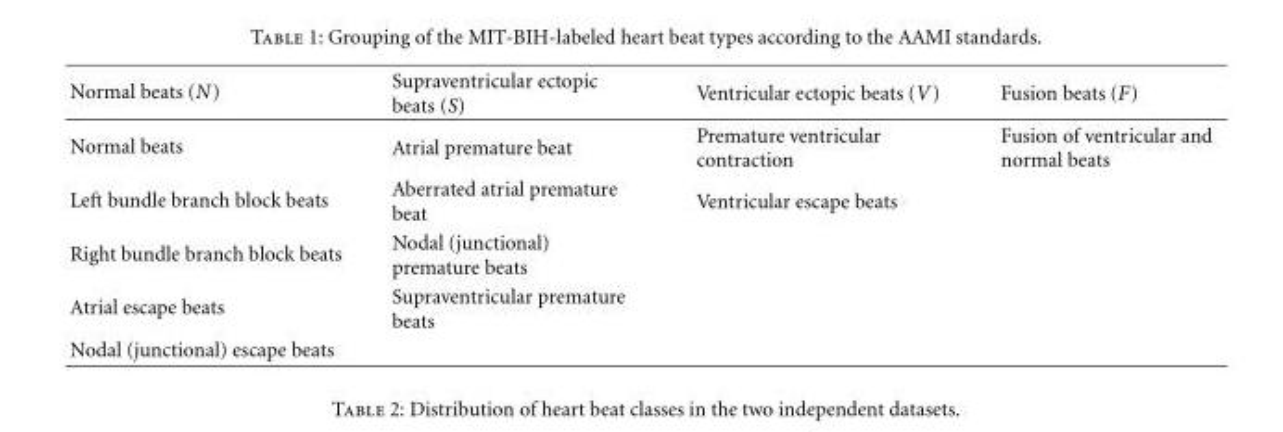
<table><thead><tr><td>Normal beats (N)</td><td>Supraventricular ectopic beats (S)</td><td>Ventricular ectopic beats (V)</td><td>Fusion beats (F)</td></tr></thead><tbody><tr><td>Normal beats</td><td>Atrial premature beat</td><td>Premature ventricular contraction</td><td>Fusion of ventricular and normal beats</td></tr><tr><td>Left bundle branch block beats</td><td>Aberrated atrial premature beat</td><td>Ventricular escape beats</td><td></td></tr><tr><td>Right bundle branch block beats</td><td>Nodal (junctional) premature beats</td><td></td><td></td></tr><tr><td>Atrial escape beats</td><td>Supraventricular premature beats</td><td></td><td></td></tr><tr><td>Nodal (junctional) escape beats</td><td></td><td></td><td></td></tr></tbody></table>